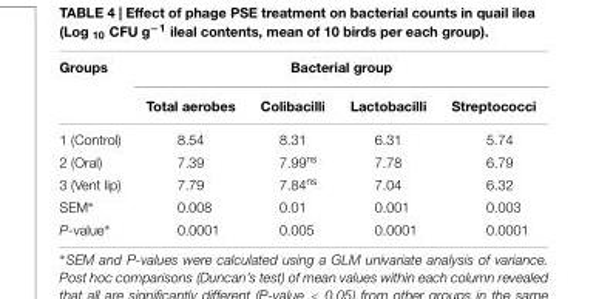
<table><thead><tr><td rowspan="2">Groups</td><td colspan="4">Bacterial group</td></tr><tr><td>Total aerobes</td><td>Colibacilli</td><td>Lactobacilli</td><td>Streptococci</td></tr></thead><tbody><tr><td>1 (Control)</td><td>8.54</td><td>8.31</td><td>6.31</td><td>5.74</td></tr><tr><td>2 (Oral)</td><td>7.39</td><td>7.99<sup>ns</sup></td><td>7.78</td><td>6.79</td></tr><tr><td>3 (Vent lip)</td><td>7.79</td><td>7.84<sup>ns</sup></td><td>7.04</td><td>6.32</td></tr><tr><td>SEM∗</td><td>0.008</td><td>0.01</td><td>0.001</td><td>0.003</td></tr><tr><td>P-value∗</td><td>0.0001</td><td>0.005</td><td>0.0001</td><td>0.0001</td></tr></tbody></table>